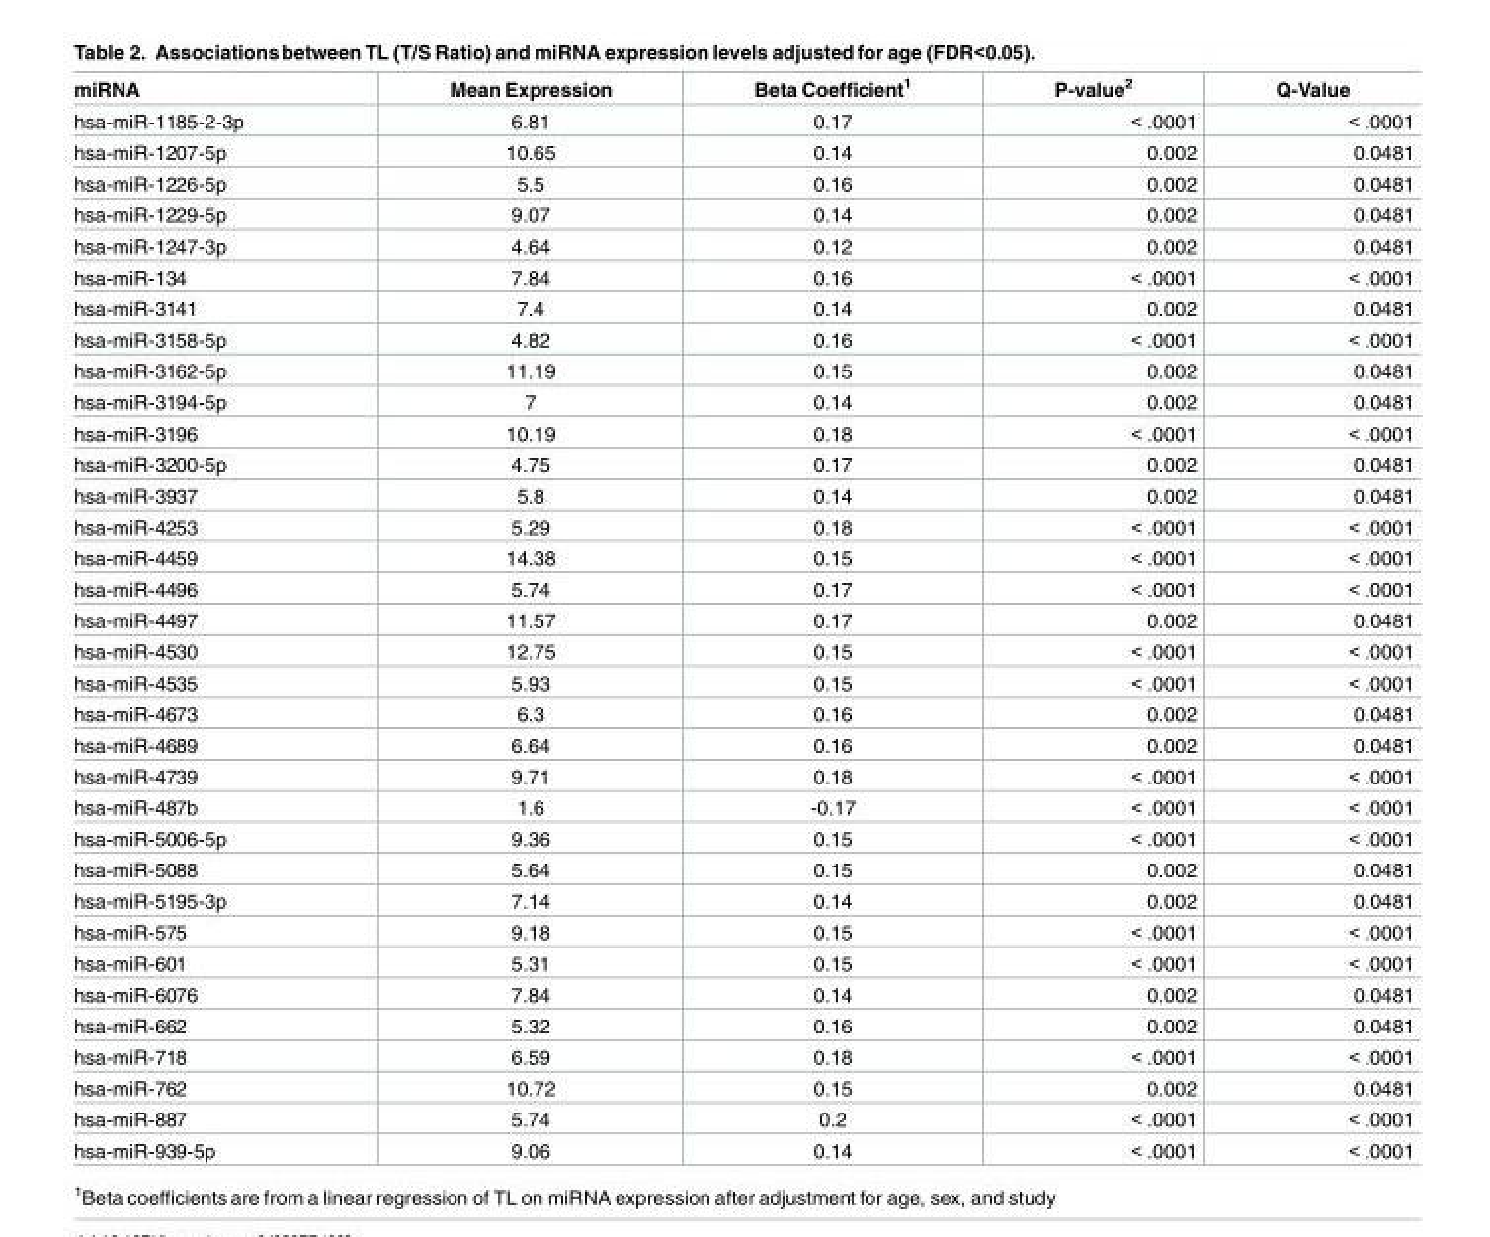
<table><thead><tr><td>miRNA</td><td>Mean Expression</td><td>Beta Coefficient<sup>1</sup></td><td>P-value<sup>2</sup></td><td>Q-Value</td></tr></thead><tbody><tr><td>hsa-miR-1185-2-3p</td><td>6.81</td><td>0.17</td><td>&lt; .0001</td><td>&lt; .0001</td></tr><tr><td>hsa-miR-1207-5p</td><td>10.65</td><td>0.14</td><td>0.002</td><td>0.0481</td></tr><tr><td>hsa-miR-1226-5p</td><td>5.5</td><td>0.16</td><td>0.002</td><td>0.0481</td></tr><tr><td>hsa-miR-1229-5p</td><td>9.07</td><td>0.14</td><td>0.002</td><td>0.0481</td></tr><tr><td>hsa-miR-1247-3p</td><td>4.64</td><td>0.12</td><td>0.002</td><td>0.0481</td></tr><tr><td>hsa-miR-134</td><td>7.84</td><td>0.16</td><td>&lt; .0001</td><td>&lt; .0001</td></tr><tr><td>hsa-miR-3141</td><td>7.4</td><td>0.14</td><td>0.002</td><td>0.0481</td></tr><tr><td>hsa-miR-3158-5p</td><td>4.82</td><td>0.16</td><td>&lt; .0001</td><td>&lt; .0001</td></tr><tr><td>hsa-miR-3162-5p</td><td>11.19</td><td>0.15</td><td>0.002</td><td>0.0481</td></tr><tr><td>hsa-miR-3194-5p</td><td>7</td><td>0.14</td><td>0.002</td><td>0.0481</td></tr><tr><td>hsa-miR-3196</td><td>10.19</td><td>0.18</td><td>&lt; .0001</td><td>&lt; .0001</td></tr><tr><td>hsa-miR-3200-5p</td><td>4.75</td><td>0.17</td><td>0.002</td><td>0.0481</td></tr><tr><td>hsa-miR-3937</td><td>5.8</td><td>0.14</td><td>0.002</td><td>0.0481</td></tr><tr><td>hsa-miR-4253</td><td>5.29</td><td>0.18</td><td>&lt; .0001</td><td>&lt; .0001</td></tr><tr><td>hsa-miR-4459</td><td>14.38</td><td>0.15</td><td>&lt; .0001</td><td>&lt; .0001</td></tr><tr><td>hsa-miR-4496</td><td>5.74</td><td>0.17</td><td>&lt; .0001</td><td>&lt; .0001</td></tr><tr><td>hsa-miR-4497</td><td>11.57</td><td>0.17</td><td>0.002</td><td>0.0481</td></tr><tr><td>hsa-miR-4530</td><td>12.75</td><td>0.15</td><td>&lt; .0001</td><td>&lt; .0001</td></tr><tr><td>hsa-miR-4535</td><td>5.93</td><td>0.15</td><td>&lt; .0001</td><td>&lt; .0001</td></tr><tr><td>hsa-miR-4673</td><td>6.3</td><td>0.16</td><td>0.002</td><td>0.0481</td></tr><tr><td>hsa-miR-4689</td><td>6.64</td><td>0.16</td><td>0.002</td><td>0.0481</td></tr><tr><td>hsa-miR-4739</td><td>9.71</td><td>0.18</td><td>&lt; .0001</td><td>&lt; .0001</td></tr><tr><td>hsa-miR-487b</td><td>1.6</td><td>-0.17</td><td>&lt; .0001</td><td>&lt; .0001</td></tr><tr><td>hsa-miR-5006-5p</td><td>9.36</td><td>0.15</td><td>&lt; .0001</td><td>&lt; .0001</td></tr><tr><td>hsa-miR-5088</td><td>5.64</td><td>0.15</td><td>0.002</td><td>0.0481</td></tr><tr><td>hsa-miR-5195-3p</td><td>7.14</td><td>0.14</td><td>0.002</td><td>0.0481</td></tr><tr><td>hsa-miR-575</td><td>9.18</td><td>0.15</td><td>&lt; .0001</td><td>&lt; .0001</td></tr><tr><td>hsa-miR-601</td><td>5.31</td><td>0.15</td><td>&lt; .0001</td><td>&lt; .0001</td></tr><tr><td>hsa-miR-6076</td><td>7.84</td><td>0.14</td><td>0.002</td><td>0.0481</td></tr><tr><td>hsa-miR-662</td><td>5.32</td><td>0.16</td><td>0.002</td><td>0.0481</td></tr><tr><td>hsa-miR-718</td><td>6.59</td><td>0.18</td><td>&lt; .0001</td><td>&lt; .0001</td></tr><tr><td>hsa-miR-762</td><td>10.72</td><td>0.15</td><td>0.002</td><td>0.0481</td></tr><tr><td>hsa-miR-887</td><td>5.74</td><td>0.2</td><td>&lt; .0001</td><td>&lt; .0001</td></tr><tr><td>hsa-miR-939-5p</td><td>9.06</td><td>0.14</td><td>&lt; .0001</td><td>&lt; .0001</td></tr></tbody></table>